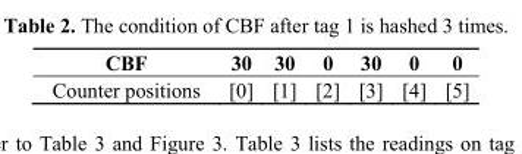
<table><thead><tr><td>CBF</td><td>30</td><td>30</td><td>0</td><td>30</td><td>0</td><td>0</td></tr></thead><tbody><tr><td>Counter positions</td><td>[0]</td><td>[1]</td><td>[2]</td><td>[3]</td><td>[4]</td><td>[5]</td></tr></tbody></table>